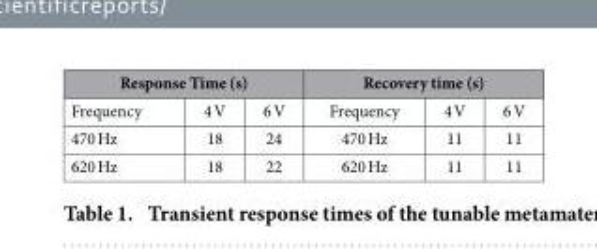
<table><thead><tr><td colspan="3">Response Time (s)</td><td colspan="3">Recovery time (s)</td></tr><tr><td>Frequency</td><td>4 V</td><td>6 V</td><td>Frequency</td><td>4 V</td><td>6 V</td></tr></thead><tbody><tr><td>470 Hz</td><td>18</td><td>24</td><td>470 Hz</td><td>11</td><td>11</td></tr><tr><td>620 Hz</td><td>18</td><td>22</td><td>620 Hz</td><td>11</td><td>11</td></tr></tbody></table>